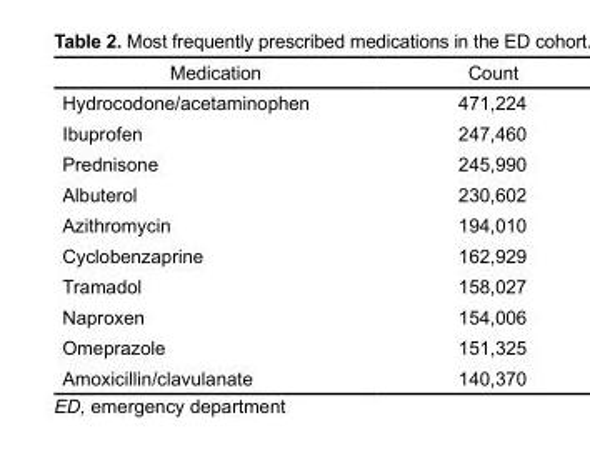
<table><thead><tr><td>Medication</td><td>Count</td></tr></thead><tbody><tr><td>Hydrocodone/acetaminophen</td><td>471,224</td></tr><tr><td>Ibuprofen</td><td>247,460</td></tr><tr><td>Prednisone</td><td>245,990</td></tr><tr><td>Albuterol</td><td>230,602</td></tr><tr><td>Azithromycin</td><td>194,010</td></tr><tr><td>Cyclobenzaprine</td><td>162,929</td></tr><tr><td>Tramadol</td><td>158,027</td></tr><tr><td>Naproxen</td><td>154,006</td></tr><tr><td>Omeprazole</td><td>151,325</td></tr><tr><td>Amoxicillin/clavulanate</td><td>140,370</td></tr></tbody></table>